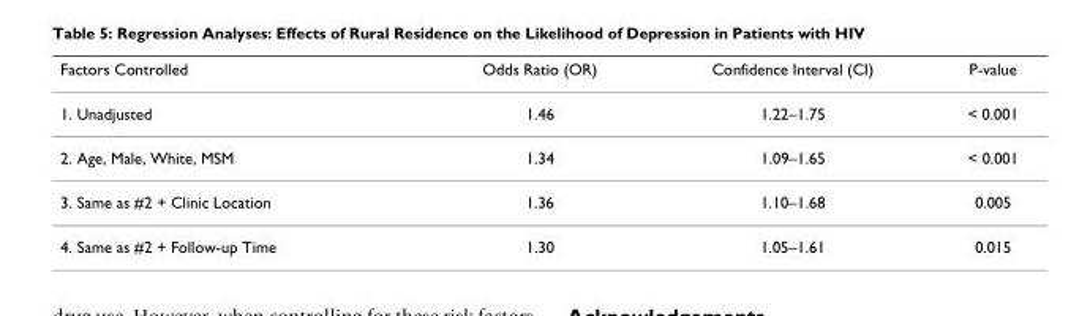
<table><thead><tr><td>Factors Controlled</td><td>Odds Ratio (OR)</td><td>Confidence Interval (CI)</td><td>P-value</td></tr></thead><tbody><tr><td>1. Unadjusted</td><td>1.46</td><td>1.22–1.75</td><td>&lt; 0.001</td></tr><tr><td>2. Age, Male, White, MSM</td><td>1.34</td><td>1.09–1.65</td><td>&lt; 0.001</td></tr><tr><td>3. Same as #2 + Clinic Location</td><td>1.36</td><td>1.10–1.68</td><td>0.005</td></tr><tr><td>4. Same as #2 + Follow-up Time</td><td>1.30</td><td>1.05–1.61</td><td>0.015</td></tr></tbody></table>